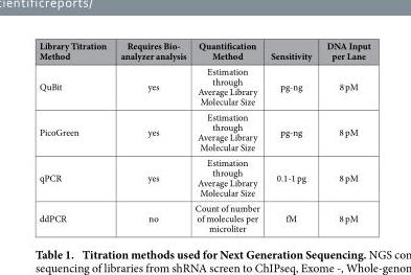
<table><thead><tr><td>Library Titration Method</td><td>Requires Bio- analyzer analysis</td><td>Quantification Method</td><td>Sensitivity</td><td>DNA Input per Lane</td></tr></thead><tbody><tr><td>QuBit</td><td>yes</td><td>Estimation through Average Library Molecular Size</td><td>pg-ng</td><td>8 pM</td></tr><tr><td>PicoGreen</td><td>yes</td><td>Estimation through Average Library Molecular Size</td><td>pg-ng</td><td>8 pM</td></tr><tr><td>qPCR</td><td>yes</td><td>Estimation through Average Library Molecular Size</td><td>0.1-1 pg</td><td>8 pM</td></tr><tr><td>ddPCR</td><td>no</td><td>Count of number of molecules per microliter</td><td>fM</td><td>8 pM</td></tr></tbody></table>